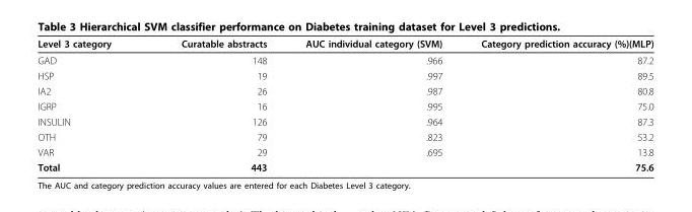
<table><thead><tr><td>Level 3 category</td><td>Curatable abstracts</td><td>AUC individual category (SVM)</td><td>Category prediction accuracy (%)(MLP)</td></tr></thead><tbody><tr><td>GAD</td><td>148</td><td>.966</td><td>87.2</td></tr><tr><td>HSP</td><td>19</td><td>.997</td><td>89.5</td></tr><tr><td>IA2</td><td>26</td><td>.987</td><td>80.8</td></tr><tr><td>IGRP</td><td>16</td><td>.995</td><td>75.0</td></tr><tr><td>INSULIN</td><td>126</td><td>.964</td><td>87.3</td></tr><tr><td>OTH</td><td>79</td><td>.823</td><td>53.2</td></tr><tr><td>VAR</td><td>29</td><td>.695</td><td>13.8</td></tr><tr><td>Total</td><td>443</td><td></td><td>75.6</td></tr></tbody></table>